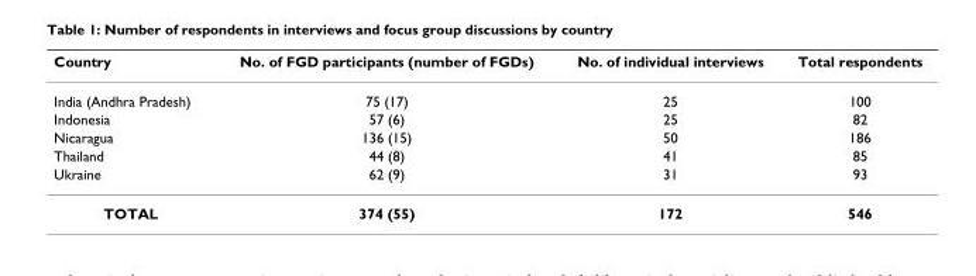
<table><thead><tr><td>Country</td><td>No. of FGD participants (number of FGDs)</td><td>No. of individual interviews</td><td>Total respondents</td></tr></thead><tbody><tr><td>India (Andhra Pradesh)</td><td>75 (17)</td><td>25</td><td>100</td></tr><tr><td>Indonesia</td><td>57 (6)</td><td>25</td><td>82</td></tr><tr><td>Nicaragua</td><td>136 (15)</td><td>50</td><td>186</td></tr><tr><td>Thailand</td><td>44 (8)</td><td>41</td><td>85</td></tr><tr><td>Ukraine</td><td>62 (9)</td><td>31</td><td>93</td></tr><tr><td>TOTAL</td><td>374 (55)</td><td>172</td><td>546</td></tr></tbody></table>